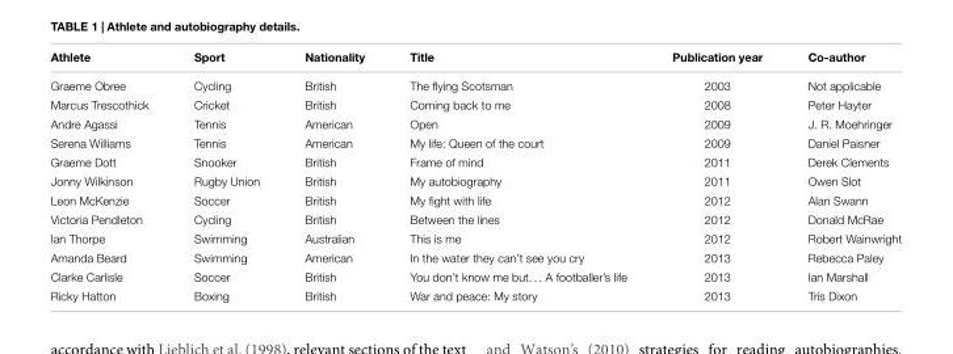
<table><thead><tr><td>Athlete</td><td>Sport</td><td>Nationality</td><td>Title</td><td>Publication year</td><td>Co-author</td></tr></thead><tbody><tr><td>Graeme Obree</td><td>Cycling</td><td>British</td><td>The flying Scotsman</td><td>2003</td><td>Not applicable</td></tr><tr><td>Marcus Trescothick</td><td>Cricket</td><td>British</td><td>Coming back to me</td><td>2008</td><td>Peter Hayter</td></tr><tr><td>Andre Agassi</td><td>Tennis</td><td>American</td><td>Open</td><td>2009</td><td>J. R. Moehringer</td></tr><tr><td>Serena Williams</td><td>Tennis</td><td>American</td><td>My life: Queen of the court</td><td>2009</td><td>Daniel Paisner</td></tr><tr><td>Graeme Dott</td><td>Snooker</td><td>British</td><td>Frame of mind</td><td>2011</td><td>Derek Clements</td></tr><tr><td>Jonny Wilkinson</td><td>Rugby Union</td><td>British</td><td>My autobiography</td><td>2011</td><td>Owen Slot</td></tr><tr><td>Leon McKenzie</td><td>Soccer</td><td>British</td><td>My fight with life</td><td>2012</td><td>Alan Swann</td></tr><tr><td>Victoria Pendleton</td><td>Cycling</td><td>British</td><td>Between the lines</td><td>2012</td><td>Donald McRae</td></tr><tr><td>Ian Thorpe</td><td>Swimming</td><td>Australian</td><td>This is me</td><td>2012</td><td>Robert Wainwright</td></tr><tr><td>Amanda Beard</td><td>Swimming</td><td>American</td><td>In the water they can’t see you cry</td><td>2013</td><td>Rebecca Paley</td></tr><tr><td>Clarke Carlisle</td><td>Soccer</td><td>British</td><td>You don’t know me but. . . A footballer’s life</td><td>2013</td><td>Ian Marshall</td></tr><tr><td>Ricky Hatton</td><td>Boxing</td><td>British</td><td>War and peace: My story</td><td>2013</td><td>Tris Dixon</td></tr></tbody></table>